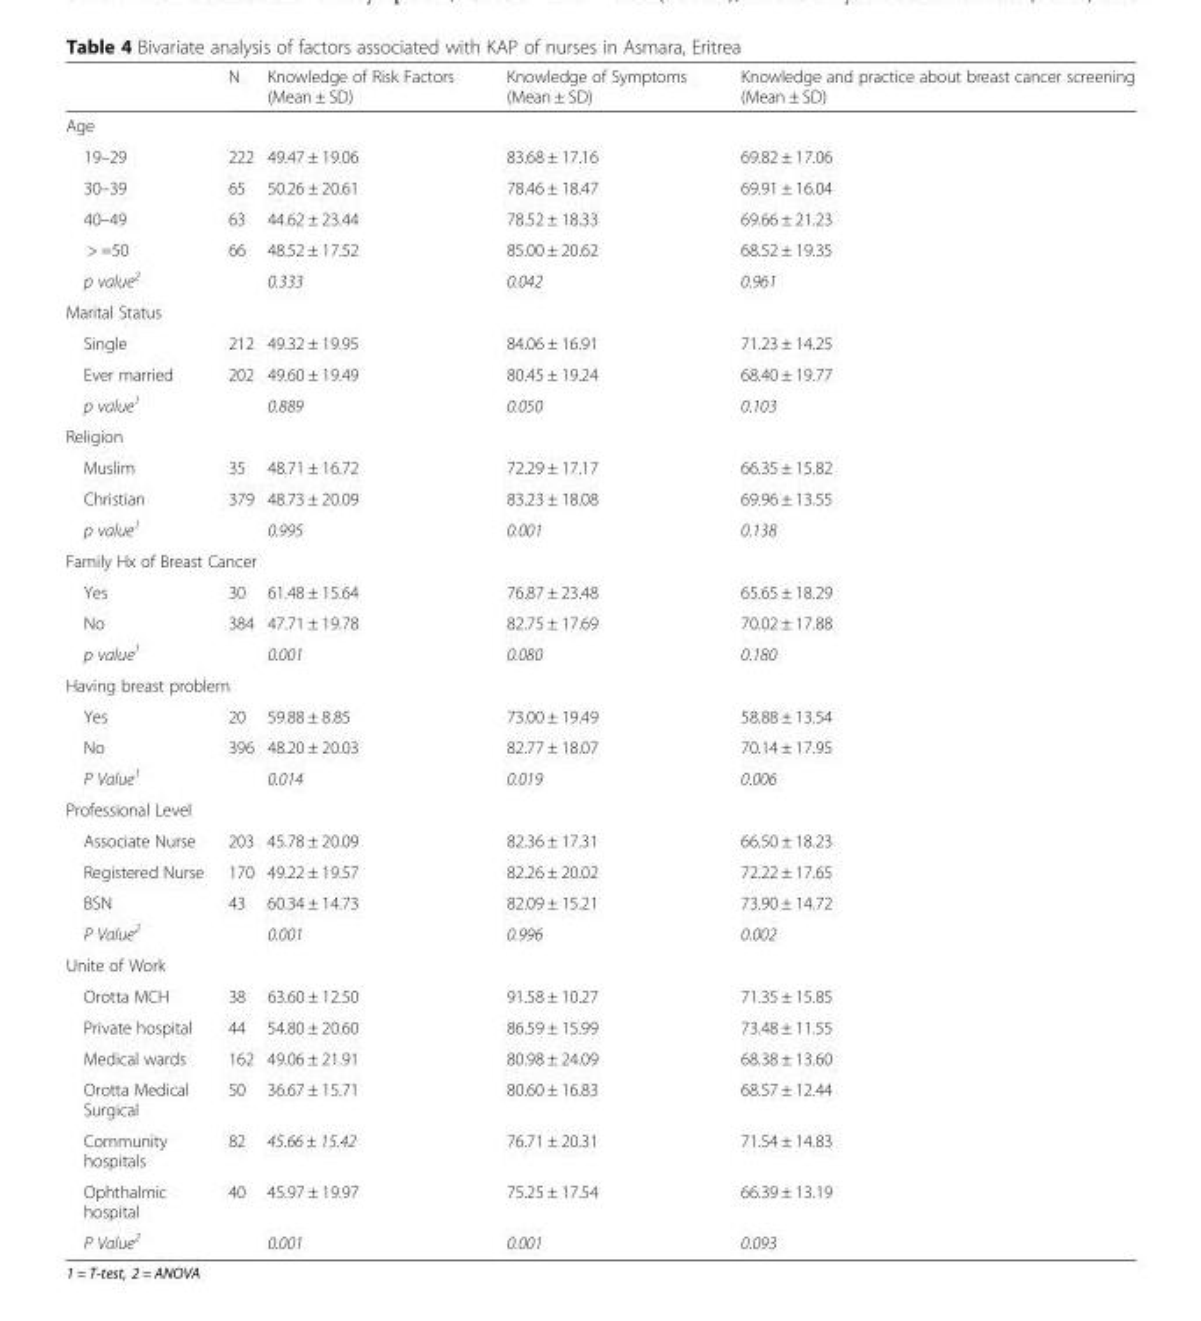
<table><thead><tr><td></td><td>N</td><td>Knowledge of Risk Factors (Mean ± SD)</td><td>Knowledge of Symptoms (Mean ± SD)</td><td>Knowledge and practice about breast cancer screening (Mean ± SD)</td></tr></thead><tbody><tr><td colspan="5">Age</td></tr><tr><td>19–29</td><td>222</td><td>49.47 ± 19.06</td><td>83.68 ± 17.16</td><td>69.82 ± 17.06</td></tr><tr><td>30–39</td><td>65</td><td>50.26 ± 20.61</td><td>78.46 ± 18.47</td><td>69.91 ± 16.04</td></tr><tr><td>40–49</td><td>63</td><td>44.62 ± 23.44</td><td>78.52 ± 18.33</td><td>69.66 ± 21.23</td></tr><tr><td>&gt; =50</td><td>66</td><td>48.52 ± 17.52</td><td>85.00 ± 20.62</td><td>68.52 ± 19.35</td></tr><tr><td>p value<sup>2</sup></td><td></td><td>0.333</td><td>0.042</td><td>0.961</td></tr><tr><td colspan="5">Marital Status</td></tr><tr><td>Single</td><td>212</td><td>49.32 ± 19.95</td><td>84.06 ± 16.91</td><td>71.23 ± 14.25</td></tr><tr><td>Ever married</td><td>202</td><td>49.60 ± 19.49</td><td>80.45 ± 19.24</td><td>68.40 ± 19.77</td></tr><tr><td>p value<sup>1</sup></td><td></td><td>0.889</td><td>0.050</td><td>0.103</td></tr><tr><td colspan="5">Religion</td></tr><tr><td>Muslim</td><td>35</td><td>48.71 ± 16.72</td><td>72.29 ± 17.17</td><td>66.35 ± 15.82</td></tr><tr><td>Christian</td><td>379</td><td>48.73 ± 20.09</td><td>83.23 ± 18.08</td><td>69.96 ± 13.55</td></tr><tr><td>p value<sup>1</sup></td><td></td><td>0.995</td><td>0.001</td><td>0.138</td></tr><tr><td colspan="5">Family Hx of Breast Cancer</td></tr><tr><td>Yes</td><td>30</td><td>61.48 ± 15.64</td><td>76.87 ± 23.48</td><td>65.65 ± 18.29</td></tr><tr><td>No</td><td>384</td><td>47.71 ± 19.78</td><td>82.75 ± 17.69</td><td>70.02 ± 17.88</td></tr><tr><td>p value<sup>1</sup></td><td></td><td>0.001</td><td>0.080</td><td>0.180</td></tr><tr><td colspan="5">Having breast problem</td></tr><tr><td>Yes</td><td>20</td><td>59.88 ± 8.85</td><td>73.00 ± 19.49</td><td>58.88 ± 13.54</td></tr><tr><td>No</td><td>396</td><td>48.20 ± 20.03</td><td>82.77 ± 18.07</td><td>70.14 ± 17.95</td></tr><tr><td>P Value<sup>1</sup></td><td></td><td>0.014</td><td>0.019</td><td>0.006</td></tr><tr><td colspan="5">Professional Level</td></tr><tr><td>Associate Nurse</td><td>203</td><td>45.78 ± 20.09</td><td>82.36 ± 17.31</td><td>66.50 ± 18.23</td></tr><tr><td>Registered Nurse</td><td>170</td><td>49.22 ± 19.57</td><td>82.26 ± 20.02</td><td>72.22 ± 17.65</td></tr><tr><td>BSN</td><td>43</td><td>60.34 ± 14.73</td><td>82.09 ± 15.21</td><td>73.90 ± 14.72</td></tr><tr><td>P Value<sup>2</sup></td><td></td><td>0.001</td><td>0.996</td><td>0.002</td></tr><tr><td colspan="5">Unite of Work</td></tr><tr><td>Orotta MCH</td><td>38</td><td>63.60 ± 12.50</td><td>91.58 ± 10.27</td><td>71.35 ± 15.85</td></tr><tr><td>Private hospital</td><td>44</td><td>54.80 ± 20.60</td><td>86.59 ± 15.99</td><td>73.48 ± 11.55</td></tr><tr><td>Medical wards</td><td>162</td><td>49.06 ± 21.91</td><td>80.98 ± 24.09</td><td>68.38 ± 13.60</td></tr><tr><td>Orotta Medical Surgical</td><td>50</td><td>36.67 ± 15.71</td><td>80.60 ± 16.83</td><td>68.57 ± 12.44</td></tr><tr><td>Community hospitals</td><td>82</td><td>45.66 ± 15.42</td><td>76.71 ± 20.31</td><td>71.54 ± 14.83</td></tr><tr><td>Ophthalmic hospital</td><td>40</td><td>45.97 ± 19.97</td><td>75.25 ± 17.54</td><td>66.39 ± 13.19</td></tr><tr><td>P Value<sup>2</sup></td><td></td><td>0.001</td><td>0.001</td><td>0.093</td></tr></tbody></table>